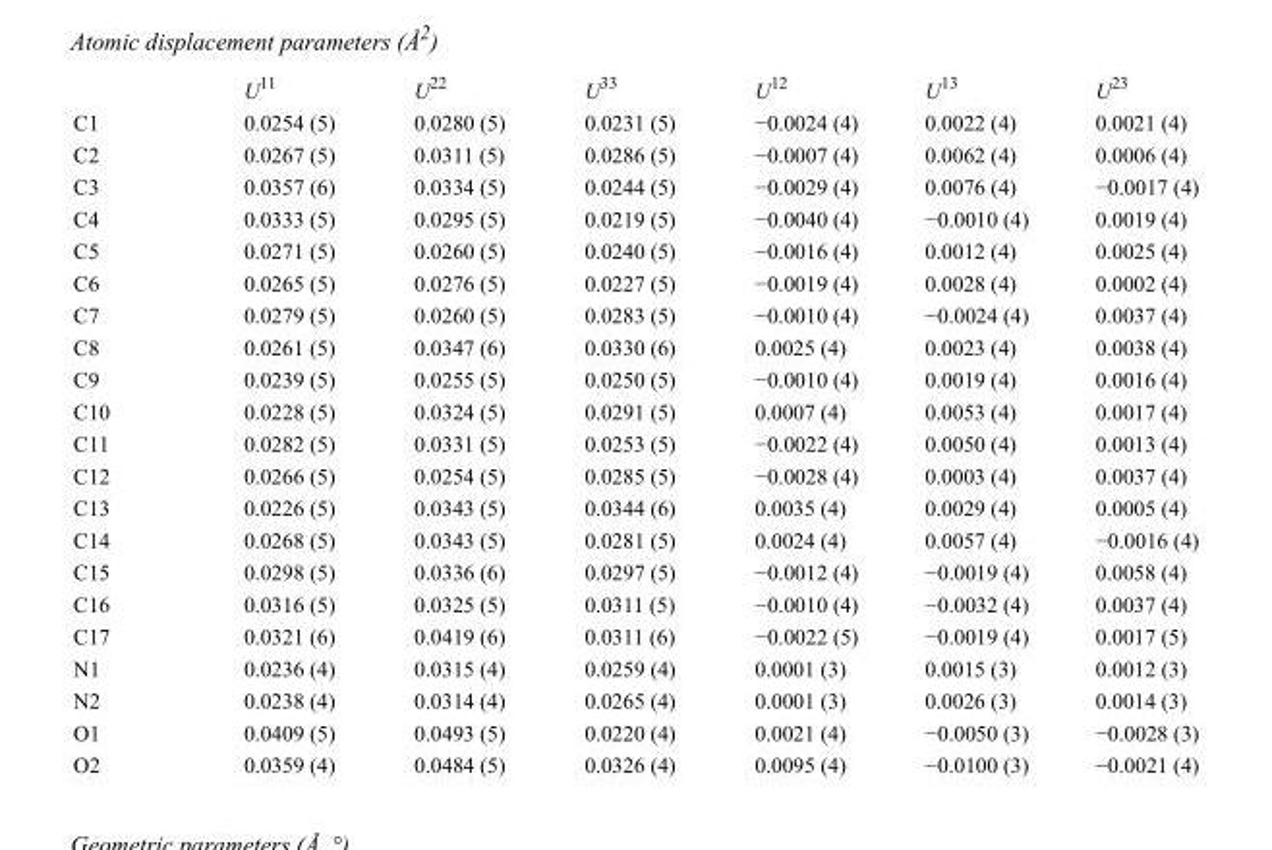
<table><thead><tr><td></td><td>U<sup>11</sup></td><td>U<sup>22</sup></td><td>U<sup>33</sup></td><td>U<sup>12</sup></td><td>U<sup>13</sup></td><td>U<sup>23</sup></td></tr></thead><tbody><tr><td>C1</td><td>0.0254 (5)</td><td>0.0280 (5)</td><td>0.0231 (5)</td><td>−0.0024 (4)</td><td>0.0022 (4)</td><td>0.0021 (4)</td></tr><tr><td>C2</td><td>0.0267 (5)</td><td>0.0311 (5)</td><td>0.0286 (5)</td><td>−0.0007 (4)</td><td>0.0062 (4)</td><td>0.0006 (4)</td></tr><tr><td>C3</td><td>0.0357 (6)</td><td>0.0334 (5)</td><td>0.0244 (5)</td><td>−0.0029 (4)</td><td>0.0076 (4)</td><td>−0.0017 (4)</td></tr><tr><td>C4</td><td>0.0333 (5)</td><td>0.0295 (5)</td><td>0.0219 (5)</td><td>−0.0040 (4)</td><td>−0.0010 (4)</td><td>0.0019 (4)</td></tr><tr><td>C5</td><td>0.0271 (5)</td><td>0.0260 (5)</td><td>0.0240 (5)</td><td>−0.0016 (4)</td><td>0.0012 (4)</td><td>0.0025 (4)</td></tr><tr><td>C6</td><td>0.0265 (5)</td><td>0.0276 (5)</td><td>0.0227 (5)</td><td>−0.0019 (4)</td><td>0.0028 (4)</td><td>0.0002 (4)</td></tr><tr><td>C7</td><td>0.0279 (5)</td><td>0.0260 (5)</td><td>0.0283 (5)</td><td>−0.0010 (4)</td><td>−0.0024 (4)</td><td>0.0037 (4)</td></tr><tr><td>C8</td><td>0.0261 (5)</td><td>0.0347 (6)</td><td>0.0330 (6)</td><td>0.0025 (4)</td><td>0.0023 (4)</td><td>0.0038 (4)</td></tr><tr><td>C9</td><td>0.0239 (5)</td><td>0.0255 (5)</td><td>0.0250 (5)</td><td>−0.0010 (4)</td><td>0.0019 (4)</td><td>0.0016 (4)</td></tr><tr><td>C10</td><td>0.0228 (5)</td><td>0.0324 (5)</td><td>0.0291 (5)</td><td>0.0007 (4)</td><td>0.0053 (4)</td><td>0.0017 (4)</td></tr><tr><td>C11</td><td>0.0282 (5)</td><td>0.0331 (5)</td><td>0.0253 (5)</td><td>−0.0022 (4)</td><td>0.0050 (4)</td><td>0.0013 (4)</td></tr><tr><td>C12</td><td>0.0266 (5)</td><td>0.0254 (5)</td><td>0.0285 (5)</td><td>−0.0028 (4)</td><td>0.0003 (4)</td><td>0.0037 (4)</td></tr><tr><td>C13</td><td>0.0226 (5)</td><td>0.0343 (5)</td><td>0.0344 (6)</td><td>0.0035 (4)</td><td>0.0029 (4)</td><td>0.0005 (4)</td></tr><tr><td>C14</td><td>0.0268 (5)</td><td>0.0343 (5)</td><td>0.0281 (5)</td><td>0.0024 (4)</td><td>0.0057 (4)</td><td>−0.0016 (4)</td></tr><tr><td>C15</td><td>0.0298 (5)</td><td>0.0336 (6)</td><td>0.0297 (5)</td><td>−0.0012 (4)</td><td>−0.0019 (4)</td><td>0.0058 (4)</td></tr><tr><td>C16</td><td>0.0316 (5)</td><td>0.0325 (5)</td><td>0.0311 (5)</td><td>−0.0010 (4)</td><td>−0.0032 (4)</td><td>0.0037 (4)</td></tr><tr><td>C17</td><td>0.0321 (6)</td><td>0.0419 (6)</td><td>0.0311 (6)</td><td>−0.0022 (5)</td><td>−0.0019 (4)</td><td>0.0017 (5)</td></tr><tr><td>N1</td><td>0.0236 (4)</td><td>0.0315 (4)</td><td>0.0259 (4)</td><td>0.0001 (3)</td><td>0.0015 (3)</td><td>0.0012 (3)</td></tr><tr><td>N2</td><td>0.0238 (4)</td><td>0.0314 (4)</td><td>0.0265 (4)</td><td>0.0001 (3)</td><td>0.0026 (3)</td><td>0.0014 (3)</td></tr><tr><td>O1</td><td>0.0409 (5)</td><td>0.0493 (5)</td><td>0.0220 (4)</td><td>0.0021 (4)</td><td>−0.0050 (3)</td><td>−0.0028 (3)</td></tr><tr><td>O2</td><td>0.0359 (4)</td><td>0.0484 (5)</td><td>0.0326 (4)</td><td>0.0095 (4)</td><td>−0.0100 (3)</td><td>−0.0021 (4)</td></tr></tbody></table>